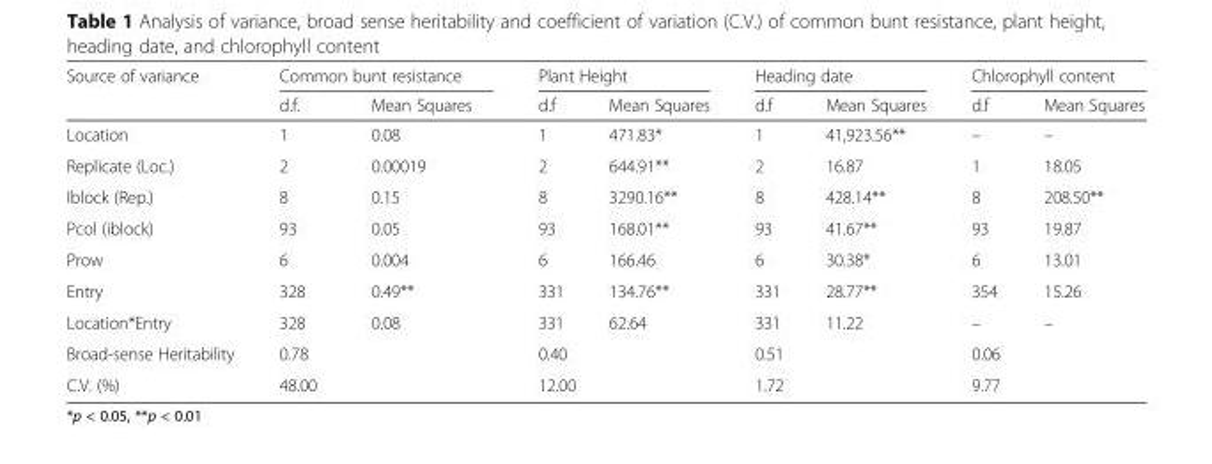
<table><thead><tr><td rowspan="2">Source of variance</td><td colspan="2">Common bunt resistance</td><td colspan="2">Plant Height</td><td colspan="2">Heading date</td><td colspan="2">Chlorophyll content</td></tr><tr><td>d.f.</td><td>Mean Squares</td><td>d.f</td><td>Mean Squares</td><td>d.f</td><td>Mean Squares</td><td>d.f</td><td>Mean Squares</td></tr></thead><tbody><tr><td>Location</td><td>1</td><td>0.08</td><td>1</td><td>471.83*</td><td>1</td><td>41,923.56**</td><td>–</td><td>–</td></tr><tr><td>Replicate (Loc.)</td><td>2</td><td>0.00019</td><td>2</td><td>644.91**</td><td>2</td><td>16.87</td><td>1</td><td>18.05</td></tr><tr><td>Iblock (Rep.)</td><td>8</td><td>0.15</td><td>8</td><td>3290.16**</td><td>8</td><td>428.14**</td><td>8</td><td>208.50**</td></tr><tr><td>Pcol (iblock)</td><td>93</td><td>0.05</td><td>93</td><td>168.01**</td><td>93</td><td>41.67**</td><td>93</td><td>19.87</td></tr><tr><td>Prow</td><td>6</td><td>0.004</td><td>6</td><td>166.46</td><td>6</td><td>30.38*</td><td>6</td><td>13.01</td></tr><tr><td>Entry</td><td>328</td><td>0.49**</td><td>331</td><td>134.76**</td><td>331</td><td>28.77**</td><td>354</td><td>15.26</td></tr><tr><td>Location*Entry</td><td>328</td><td>0.08</td><td>331</td><td>62.64</td><td>331</td><td>11.22</td><td>–</td><td>–</td></tr><tr><td>Broad-sense Heritability</td><td colspan="2">0.78</td><td colspan="2">0.40</td><td colspan="2">0.51</td><td colspan="2">0.06</td></tr><tr><td>C.V. (%)</td><td colspan="2">48.00</td><td colspan="2">12.00</td><td colspan="2">1.72</td><td colspan="2">9.77</td></tr></tbody></table>